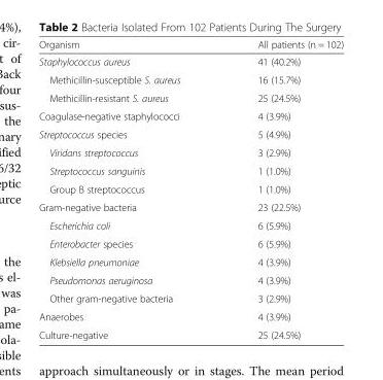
<table><thead><tr><td>Organism</td><td>All patients (n = 102)</td></tr></thead><tbody><tr><td>Staphylococcus aureus</td><td>41 (40.2%)</td></tr><tr><td>Methicillin-susceptible S. aureus</td><td>16 (15.7%)</td></tr><tr><td>Methicillin-resistant S. aureus</td><td>25 (24.5%)</td></tr><tr><td>Coagulase-negative staphylococci</td><td>4 (3.9%)</td></tr><tr><td>Streptococcus species</td><td>5 (4.9%)</td></tr><tr><td>Viridans streptococcus</td><td>3 (2.9%)</td></tr><tr><td>Streptococcus sanguinis</td><td>1 (1.0%)</td></tr><tr><td>Group B streptococcus</td><td>1 (1.0%)</td></tr><tr><td>Gram-negative bacteria</td><td>23 (22.5%)</td></tr><tr><td>Escherichia coli</td><td>6 (5.9%)</td></tr><tr><td>Enterobacter species</td><td>6 (5.9%)</td></tr><tr><td>Klebsiella pneumoniae</td><td>4 (3.9%)</td></tr><tr><td>Pseudomonas aeruginosa</td><td>4 (3.9%)</td></tr><tr><td>Other gram-negative bacteria</td><td>3 (2.9%)</td></tr><tr><td>Anaerobes</td><td>4 (3.9%)</td></tr><tr><td>Culture-negative</td><td>25 (24.5%)</td></tr></tbody></table>